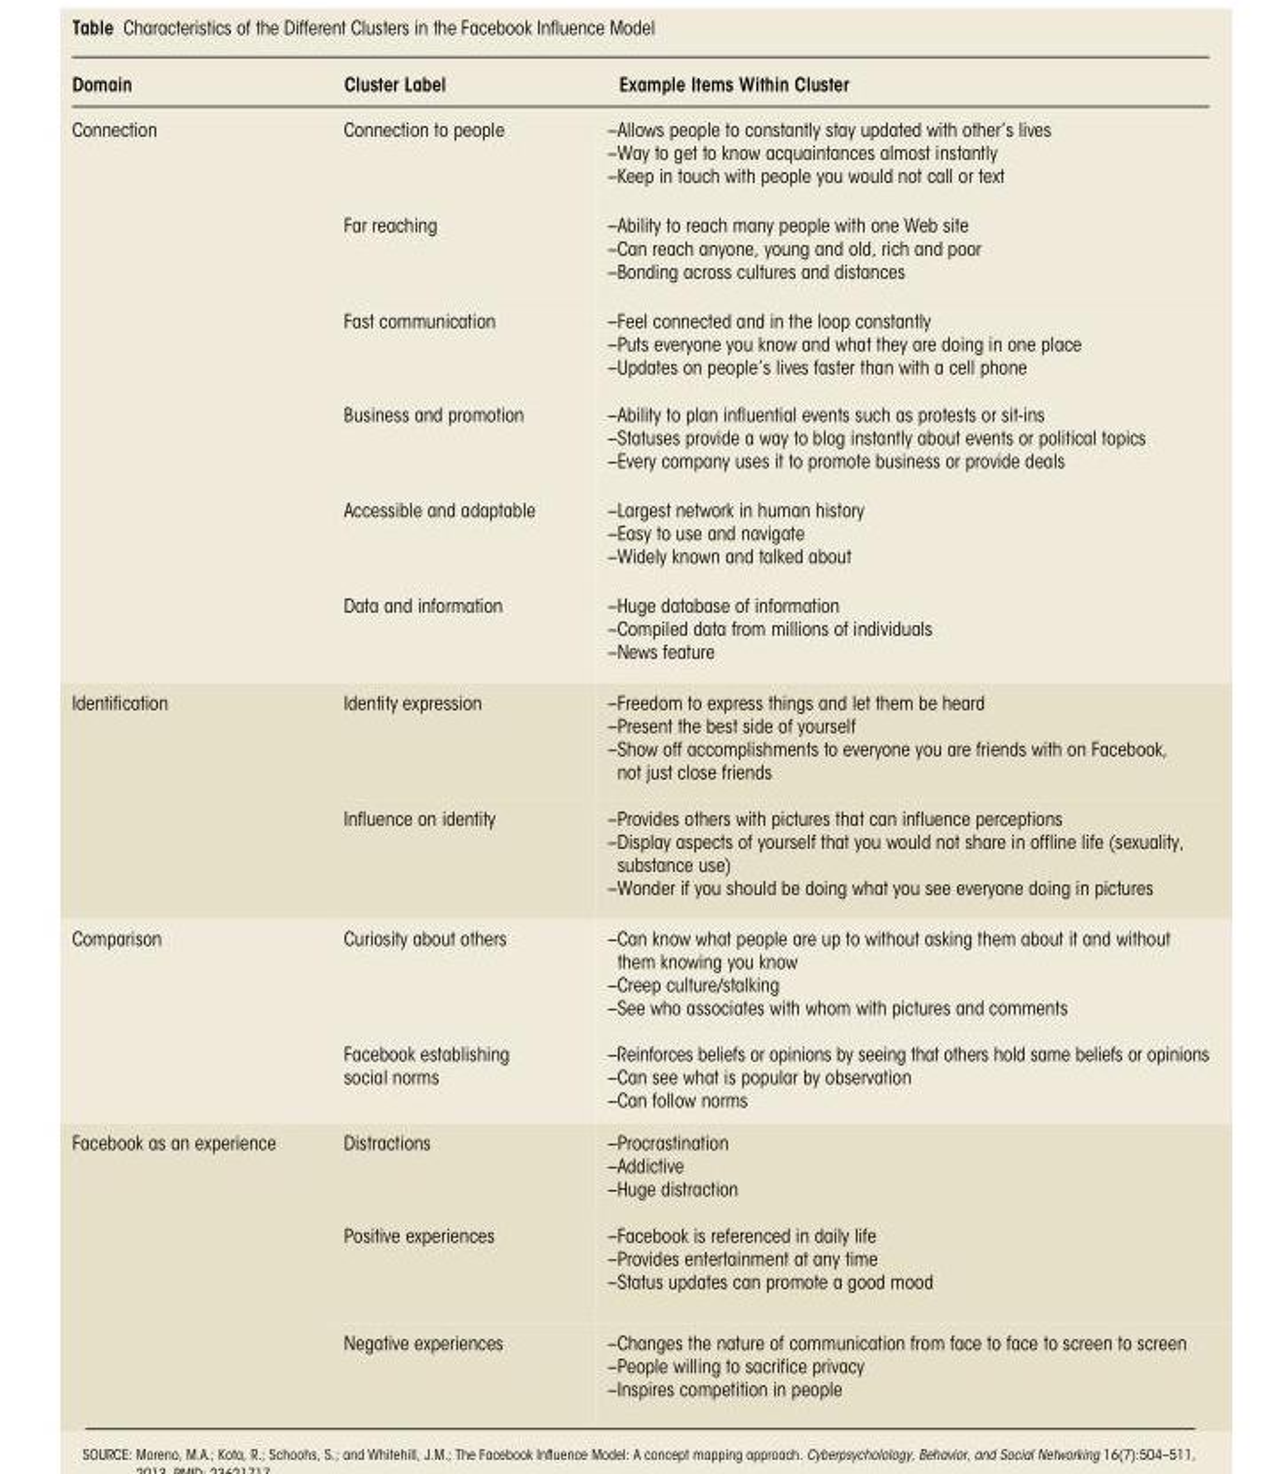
<table><thead><tr><td>Domain</td><td>Cluster Label</td><td>Example Items Within Cluster</td></tr></thead><tbody><tr><td rowspan="6">Connection</td><td>Connection to people</td><td>–Allows people to constantly stay updated with other’s lives –Way to get to know acquaintances almost instantly –Keep in touch with people you would not call or text</td></tr><tr><td>Far reaching</td><td>–Ability to reach many people with one Web site –Can reach anyone, young and old, rich and poor –Bonding across cultures and distances</td></tr><tr><td>Fast communication</td><td>–Feel connected and in the loop constantly –Puts everyone you know and what they are doing in one place –Updates on people’s lives faster than with a cell phone</td></tr><tr><td>Business and promotion</td><td>–Ability to plan influential events such as protests or sit-ins –Statuses provide a way to blog instantly about events or political topics –Every company uses it to promote business or provide deals</td></tr><tr><td>Accessible and adaptable</td><td>–Largest network in human history –Easy to use and navigate –Widely known and talked about</td></tr><tr><td>Data and information</td><td>–Huge database of information –Compiled data from millions of individuals –News feature</td></tr><tr><td rowspan="2">Identification</td><td>Identity expression</td><td>–Freedom to express things and let them be heard –Present the best side of yourself –Show off accomplishments to everyone you are friends with on Facebook, not just close friends</td></tr><tr><td>Influence on identity</td><td>–Provides others with pictures that can influence perceptions –Display aspects of yourself that you would not share in offline life (sexuality, substance use) –Wonder if you should be doing what you see everyone doing in pictures</td></tr><tr><td rowspan="2">Comparison</td><td>Curiosity about others</td><td>–Can know what people are up to without asking them about it and without them knowing you know –Creep culture/stalking –See who associates with whom with pictures and comments</td></tr><tr><td>Facebook establishing social norms</td><td>–Reinforces beliefs or opinions by seeing that others hold same beliefs or opinions –Can see what is popular by observation –Can follow norms</td></tr><tr><td rowspan="3">Facebook as an experience</td><td>Distractions</td><td>–Procrastination –Addictive –Huge distraction</td></tr><tr><td>Positive experiences</td><td>–Facebook is referenced in daily life –Provides entertainment at any time –Status updates can promote a good mood</td></tr><tr><td>Negative experiences</td><td>–Changes the nature of communication from face to face to screen to screen –People willing to sacrifice privacy –Inspires competition in people</td></tr></tbody></table>